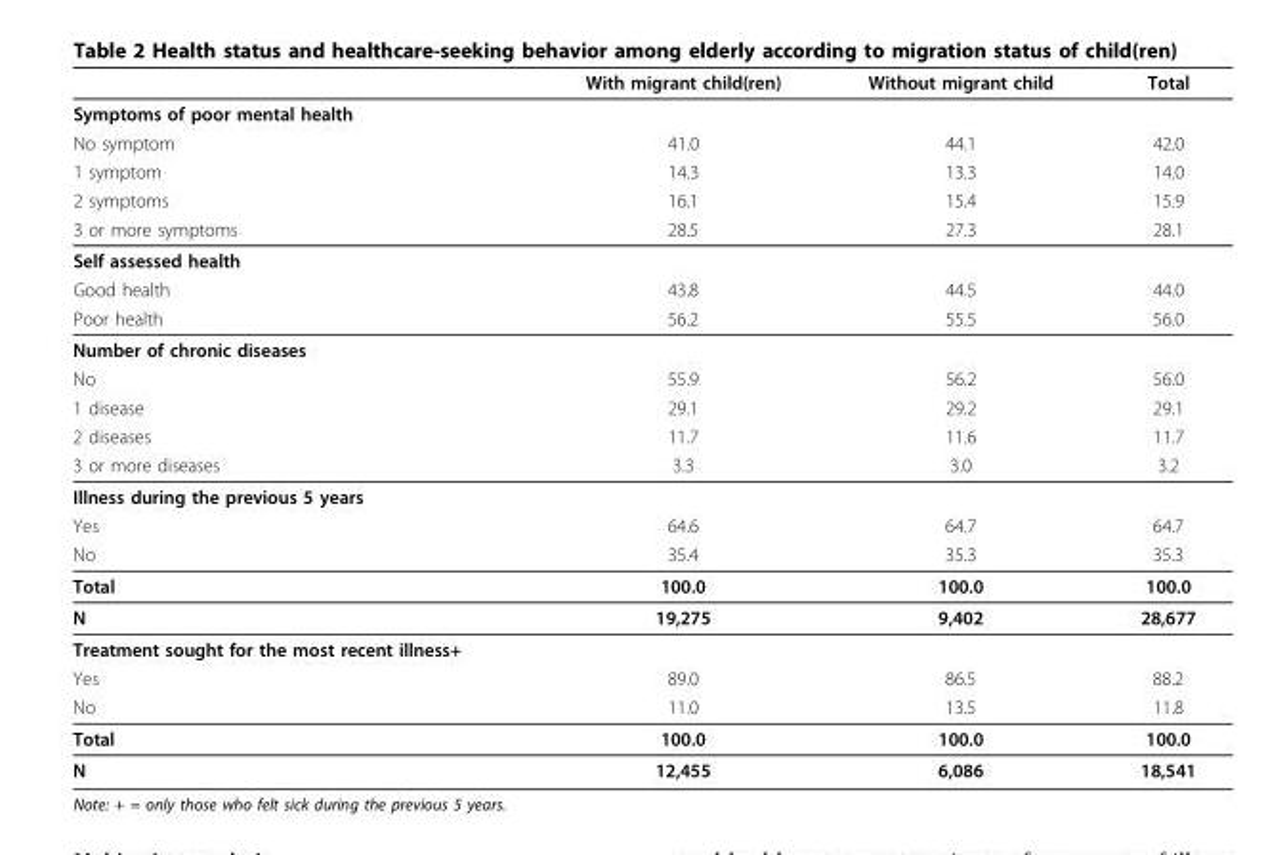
<table><thead><tr><td></td><td>With migrant child(ren)</td><td>Without migrant child</td><td>Total</td></tr></thead><tbody><tr><td colspan="4">Symptoms of poor mental health</td></tr><tr><td>No symptom</td><td>41.0</td><td>44.1</td><td>42.0</td></tr><tr><td>1 symptom</td><td>14.3</td><td>13.3</td><td>14.0</td></tr><tr><td>2 symptoms</td><td>16.1</td><td>15.4</td><td>15.9</td></tr><tr><td>3 or more symptoms</td><td>28.5</td><td>27.3</td><td>28.1</td></tr><tr><td colspan="4">Self assessed health</td></tr><tr><td>Good health</td><td>43.8</td><td>44.5</td><td>44.0</td></tr><tr><td>Poor health</td><td>56.2</td><td>55.5</td><td>56.0</td></tr><tr><td colspan="4">Number of chronic diseases</td></tr><tr><td>No</td><td>55.9</td><td>56.2</td><td>56.0</td></tr><tr><td>1 disease</td><td>29.1</td><td>29.2</td><td>29.1</td></tr><tr><td>2 diseases</td><td>11.7</td><td>11.6</td><td>11.7</td></tr><tr><td>3 or more diseases</td><td>3.3</td><td>3.0</td><td>3.2</td></tr><tr><td colspan="4">Illness during the previous 5 years</td></tr><tr><td>Yes</td><td>64.6</td><td>64.7</td><td>64.7</td></tr><tr><td>No</td><td>35.4</td><td>35.3</td><td>35.3</td></tr><tr><td>Total</td><td>100.0</td><td>100.0</td><td>100.0</td></tr><tr><td>N</td><td>19,275</td><td>9,402</td><td>28,677</td></tr><tr><td colspan="4">Treatment sought for the most recent illness+</td></tr><tr><td>Yes</td><td>89.0</td><td>86.5</td><td>88.2</td></tr><tr><td>No</td><td>11.0</td><td>13.5</td><td>11.8</td></tr><tr><td>Total</td><td>100.0</td><td>100.0</td><td>100.0</td></tr><tr><td>N</td><td>12,455</td><td>6,086</td><td>18,541</td></tr></tbody></table>